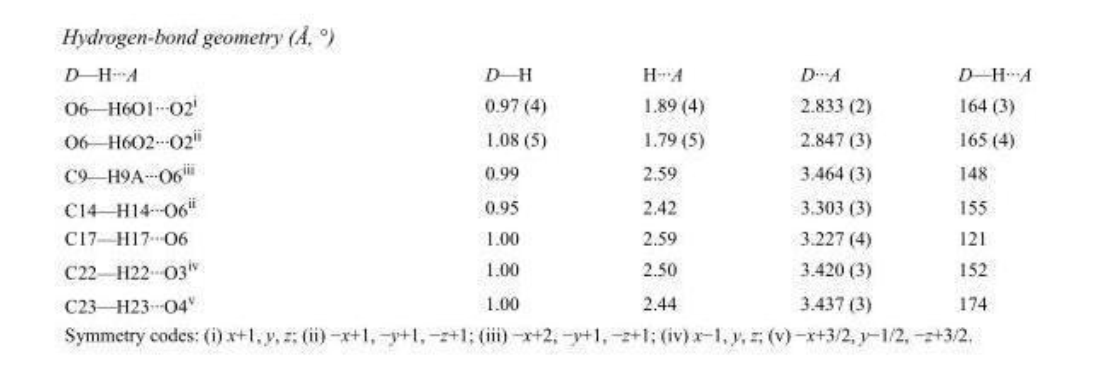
<table><tbody><tr><td>D—H···A</td><td>D—H</td><td>H···A</td><td>D···A</td><td>D—H···A</td></tr><tr><td>O6—H6O1···O2<sup>i</sup></td><td>0.97 (4)</td><td>1.89 (4)</td><td>2.833 (2)</td><td>164 (3)</td></tr><tr><td>O6—H6O2···O2<sup>ii</sup></td><td>1.08 (5)</td><td>1.79 (5)</td><td>2.847 (3)</td><td>165 (4)</td></tr><tr><td>C9—H9A···O6<sup>iii</sup></td><td>0.99</td><td>2.59</td><td>3.464 (3)</td><td>148</td></tr><tr><td>C14—H14···O6<sup>ii</sup></td><td>0.95</td><td>2.42</td><td>3.303 (3)</td><td>155</td></tr><tr><td>C17—H17···O6</td><td>1.00</td><td>2.59</td><td>3.227 (4)</td><td>121</td></tr><tr><td>C22—H22···O3<sup>iv</sup></td><td>1.00</td><td>2.50</td><td>3.420 (3)</td><td>152</td></tr><tr><td>C23—H23···O4<sup>v</sup></td><td>1.00</td><td>2.44</td><td>3.437 (3)</td><td>174</td></tr></tbody></table>